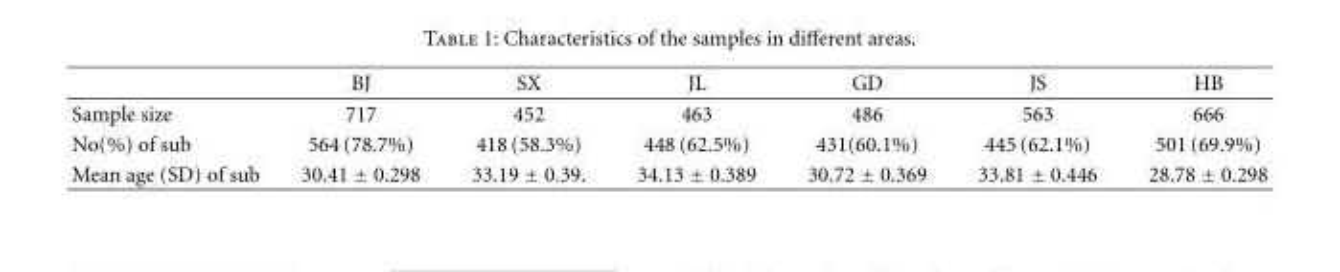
<table><thead><tr><td></td><td>BJ</td><td>SX</td><td>JL</td><td>GD</td><td>JS</td><td>HB</td></tr></thead><tbody><tr><td>Sample size</td><td>717</td><td>452</td><td>463</td><td>486</td><td>563</td><td>666</td></tr><tr><td>No(%) of sub</td><td>564 (78.7%)</td><td>418 (58.3%)</td><td>448 (62.5%)</td><td>431(60.1%)</td><td>445 (62.1%)</td><td>501 (69.9%)</td></tr><tr><td>Mean age (SD) of sub</td><td>30.41 ± 0.298</td><td>33.19 ± 0.39.</td><td>34.13 ± 0.389</td><td>30.72 ± 0.369</td><td>33.81 ± 0.446</td><td>28.78 ± 0.298</td></tr></tbody></table>